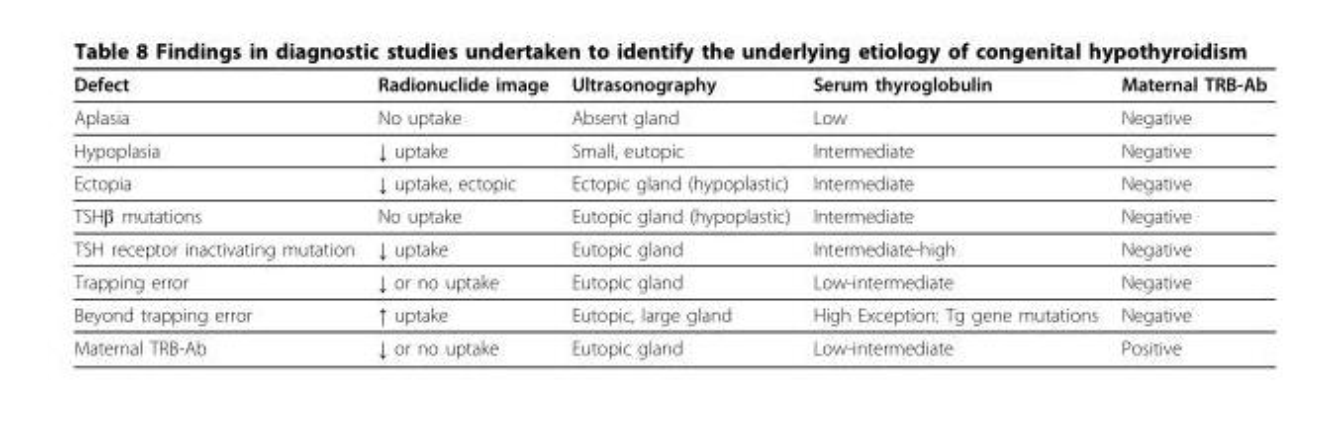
<table><thead><tr><td>Defect</td><td>Radionuclide image</td><td>Ultrasonography</td><td>Serum thyroglobulin</td><td>Maternal TRB-Ab</td></tr></thead><tbody><tr><td>Aplasia</td><td>No uptake</td><td>Absent gland</td><td>Low</td><td>Negative</td></tr><tr><td>Hypoplasia</td><td>↓ uptake</td><td>Small, eutopic</td><td>Intermediate</td><td>Negative</td></tr><tr><td>Ectopia</td><td>↓ uptake, ectopic</td><td>Ectopic gland (hypoplastic)</td><td>Intermediate</td><td>Negative</td></tr><tr><td>TSHβ mutations</td><td>No uptake</td><td>Eutopic gland (hypoplastic)</td><td>Intermediate</td><td>Negative</td></tr><tr><td>TSH receptor inactivating mutation</td><td>↓ uptake</td><td>Eutopic gland</td><td>Intermediate-high</td><td>Negative</td></tr><tr><td>Trapping error</td><td>↓ or no uptake</td><td>Eutopic gland</td><td>Low-intermediate</td><td>Negative</td></tr><tr><td>Beyond trapping error</td><td>↑ uptake</td><td>Eutopic, large gland</td><td>High Exception: Tg gene mutations</td><td>Negative</td></tr><tr><td>Maternal TRB-Ab</td><td>↓ or no uptake</td><td>Eutopic gland</td><td>Low-intermediate</td><td>Positive</td></tr></tbody></table>